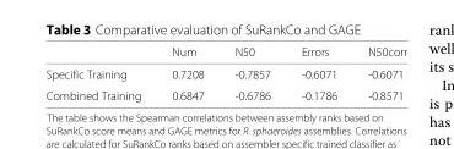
<table><thead><tr><td></td><td>Num</td><td>N50</td><td>Errors</td><td>N50corr</td></tr></thead><tbody><tr><td>Specific Training</td><td>0.7208</td><td>-0.7857</td><td>-0.6071</td><td>-0.6071</td></tr><tr><td>Combined Training</td><td>0.6847</td><td>-0.6786</td><td>-0.1786</td><td>-0.8571</td></tr></tbody></table>